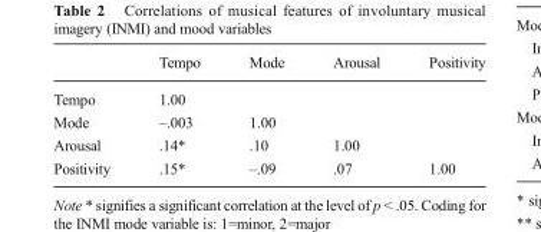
<table><thead><tr><td></td><td>Tempo</td><td>Mode</td><td>Arousal</td><td>Positivity</td></tr></thead><tbody><tr><td>Tempo</td><td>1.00</td><td></td><td></td><td></td></tr><tr><td>Mode</td><td>–.003</td><td>1.00</td><td></td><td></td></tr><tr><td>Arousal</td><td>.14*</td><td>.10</td><td>1.00</td><td></td></tr><tr><td>Positivity</td><td>.15*</td><td>–.09</td><td>.07</td><td>1.00</td></tr></tbody></table>